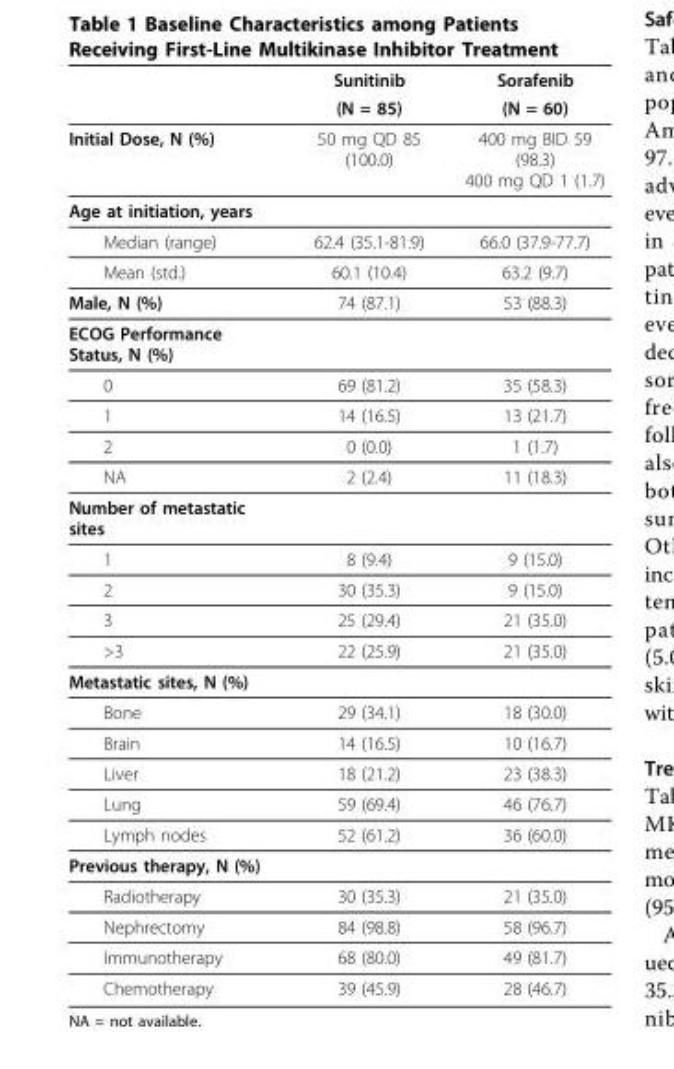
<table><thead><tr><td rowspan="2"></td><td rowspan="2">Sunitinib (N = 85)</td><td rowspan="2">Sorafenib (N = 60)</td></tr><tr></tr></thead><tbody><tr><td>Initial Dose, N (%)</td><td>50 mg QD 85 (100.0)</td><td>400 mg BID 59 (98.3) 400 mg QD 1 (1.7)</td></tr><tr><td colspan="3">Age at initiation, years</td></tr><tr><td>Median (range)</td><td>62.4 (35.1-81.9)</td><td>66.0 (37.9-77.7)</td></tr><tr><td>Mean (std.)</td><td>60.1 (10.4)</td><td>63.2 (9.7)</td></tr><tr><td>Male, N (%)</td><td>74 (87.1)</td><td>53 (88.3)</td></tr><tr><td colspan="3">ECOG Performance Status, N (%)</td></tr><tr><td>0</td><td>69 (81.2)</td><td>35 (58.3)</td></tr><tr><td>1</td><td>14 (16.5)</td><td>13 (21.7)</td></tr><tr><td>2</td><td>0 (0.0)</td><td>1 (1.7)</td></tr><tr><td>NA</td><td>2 (2.4)</td><td>11 (18.3)</td></tr><tr><td colspan="3">Number of metastatic sites</td></tr><tr><td>1</td><td>8 (9.4)</td><td>9 (15.0)</td></tr><tr><td>2</td><td>30 (35.3)</td><td>9 (15.0)</td></tr><tr><td>3</td><td>25 (29.4)</td><td>21 (35.0)</td></tr><tr><td>&gt;3</td><td>22 (25.9)</td><td>21 (35.0)</td></tr><tr><td colspan="3">Metastatic sites, N (%)</td></tr><tr><td>Bone</td><td>29 (34.1)</td><td>18 (30.0)</td></tr><tr><td>Brain</td><td>14 (16.5)</td><td>10 (16.7)</td></tr><tr><td>Liver</td><td>18 (21.2)</td><td>23 (38.3)</td></tr><tr><td>Lung</td><td>59 (69.4)</td><td>46 (76.7)</td></tr><tr><td>Lymph nodes</td><td>52 (61.2)</td><td>36 (60.0)</td></tr><tr><td colspan="3">Previous therapy, N (%)</td></tr><tr><td>Radiotherapy</td><td>30 (35.3)</td><td>21 (35.0)</td></tr><tr><td>Nephrectomy</td><td>84 (98.8)</td><td>58 (96.7)</td></tr><tr><td>Immunotherapy</td><td>68 (80.0)</td><td>49 (81.7)</td></tr><tr><td>Chemotherapy</td><td>39 (45.9)</td><td>28 (46.7)</td></tr></tbody></table>